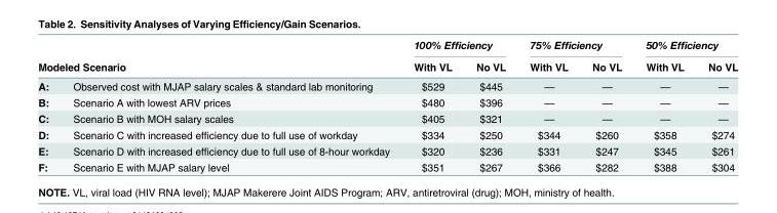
<table><thead><tr><td></td><td></td><td colspan="2">100% Efficiency</td><td colspan="2">75% Efficiency</td><td colspan="2">50% Efficiency</td></tr><tr><td colspan="2">Modeled Scenario</td><td>With VL</td><td>No VL</td><td>With VL</td><td>No VL</td><td>With VL</td><td>No VL</td></tr></thead><tbody><tr><td>A:</td><td>Observed cost with MJAP salary scales &amp; standard lab monitoring</td><td>$529</td><td>$445</td><td>—</td><td>—</td><td>—</td><td>—</td></tr><tr><td>B:</td><td>Scenario A with lowest ARV prices</td><td>$480</td><td>$396</td><td>—</td><td>—</td><td>—</td><td>—</td></tr><tr><td>C:</td><td>Scenario B with MOH salary scales</td><td>$405</td><td>$321</td><td>—</td><td>—</td><td>—</td><td>—</td></tr><tr><td>D:</td><td>Scenario C with increased efficiency due to full use of workday</td><td>$334</td><td>$250</td><td>$344</td><td>$260</td><td>$358</td><td>$274</td></tr><tr><td>E:</td><td>Scenario D with increased efficiency due to full use of 8-hour workday</td><td>$320</td><td>$236</td><td>$331</td><td>$247</td><td>$345</td><td>$261</td></tr><tr><td>F:</td><td>Scenario E with MJAP salary level</td><td>$351</td><td>$267</td><td>$366</td><td>$282</td><td>$388</td><td>$304</td></tr></tbody></table>